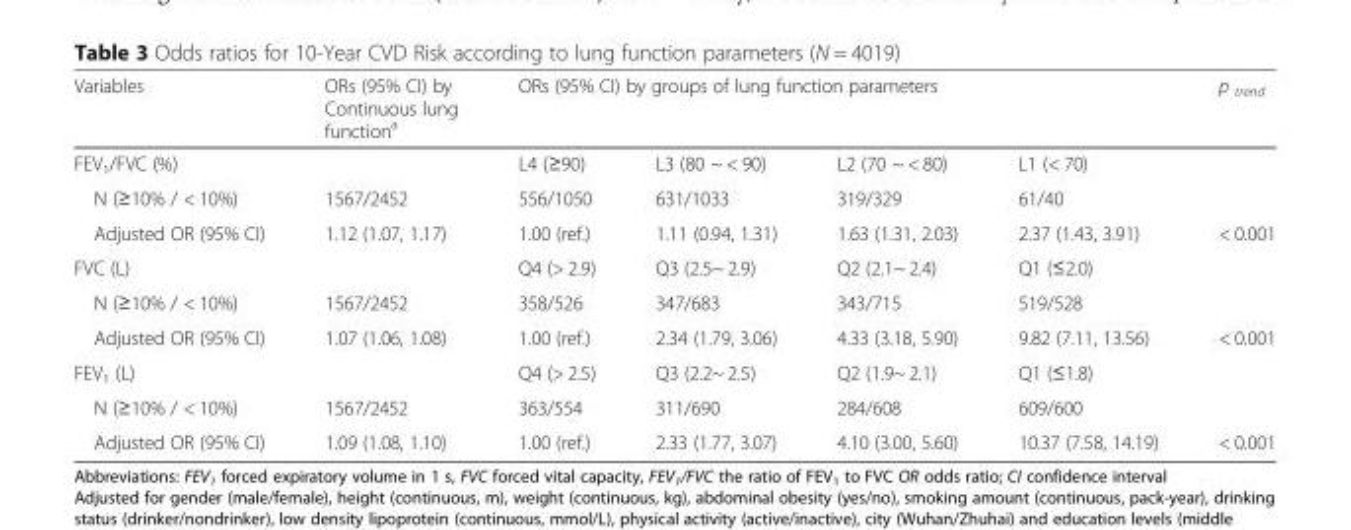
<table><thead><tr><td rowspan="2">Variables FEV<sub>1</sub>/FVC (%)</td><td rowspan="2">ORs (95% CI) by Continuous lung function<sup>a</sup></td><td colspan="4">ORs (95% CI) by groups of lung function parameters</td><td rowspan="2">p <sub>trend</sub></td></tr><tr><td>L4 (≥90)</td><td>L3 (80 ~ &lt; 90)</td><td>L2 (70 ~ &lt; 80)</td><td>L1 (&lt; 70)</td></tr></thead><tbody><tr><td>N (≥10% / &lt; 10%)</td><td>1567/2452</td><td>556/1050</td><td>631/1033</td><td>319/329</td><td>61/40</td><td></td></tr><tr><td>Adjusted OR (95% CI)</td><td>1.12 (1.07, 1.17)</td><td>1.00 (ref.)</td><td>1.11 (0.94, 1.31)</td><td>1.63 (1.31, 2.03)</td><td>2.37 (1.43, 3.91)</td><td>&lt; 0.001</td></tr><tr><td>FVC (L)</td><td></td><td>Q4 (&gt; 2.9)</td><td>Q3 (2.5~ 2.9)</td><td>Q2 (2.1~ 2.4)</td><td>Q1 (≤2.0)</td><td></td></tr><tr><td>N (≥10% / &lt; 10%)</td><td>1567/2452</td><td>358/526</td><td>347/683</td><td>343/715</td><td>519/528</td><td></td></tr><tr><td>Adjusted OR (95% CI)</td><td>1.07 (1.06, 1.08)</td><td>1.00 (ref.)</td><td>2.34 (1.79, 3.06)</td><td>4.33 (3.18, 5.90)</td><td>9.82 (7.11, 13.56)</td><td>&lt; 0.001</td></tr><tr><td>FEV<sub>1</sub> (L)</td><td></td><td>Q4 (&gt; 2.5)</td><td>Q3 (2.2~ 2.5)</td><td>Q2 (1.9~ 2.1)</td><td>Q1 (≤1.8)</td><td></td></tr><tr><td>N (≥10% / &lt; 10%)</td><td>1567/2452</td><td>363/554</td><td>311/690</td><td>284/608</td><td>609/600</td><td></td></tr><tr><td>Adjusted OR (95% CI)</td><td>1.09 (1.08, 1.10)</td><td>1.00 (ref.)</td><td>2.33 (1.77, 3.07)</td><td>4.10 (3.00, 5.60)</td><td>10.37 (7.58, 14.19)</td><td>&lt; 0.001</td></tr></tbody></table>